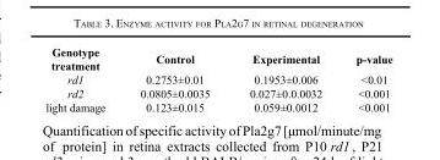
<table><thead><tr><td>Genotype treatment</td><td>Control</td><td>Experimental</td><td>p-value</td></tr></thead><tbody><tr><td>rd1</td><td>0.2753±0.01</td><td>0.1953±0.006</td><td>&lt;0.01</td></tr><tr><td>rd2</td><td>0.0805±0.0035</td><td>0.027±0.0.0032</td><td>&lt;0.001</td></tr><tr><td>light damage</td><td>0.123±0.015</td><td>0.059±0.0012</td><td>&lt;0.001</td></tr></tbody></table>